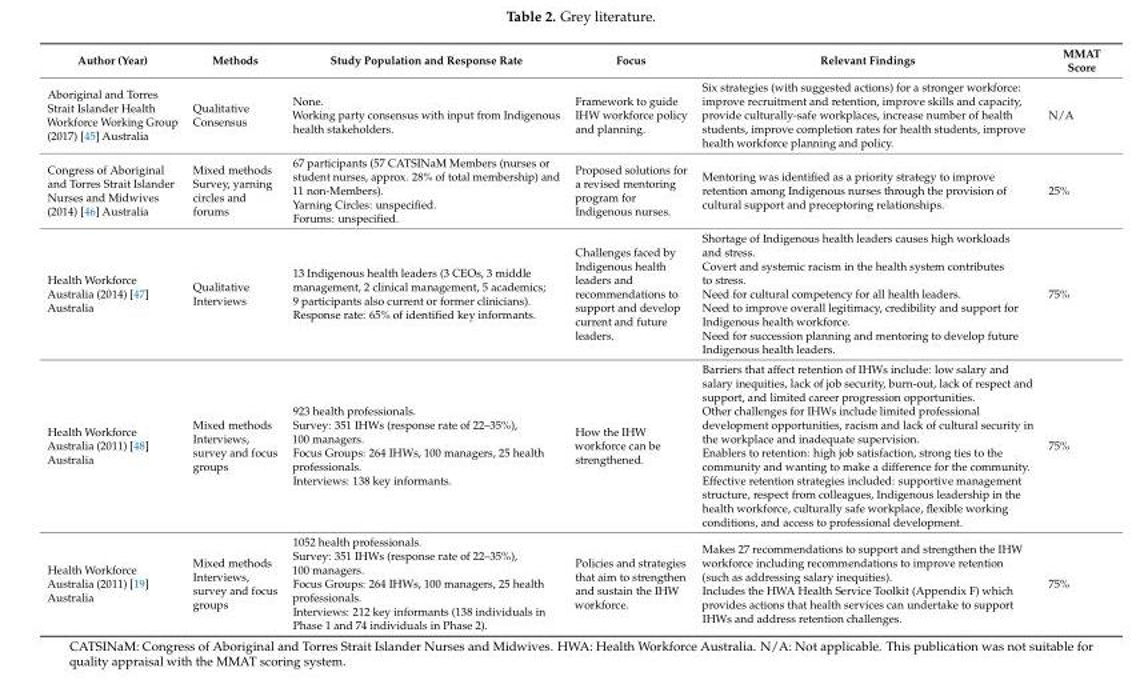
<table><thead><tr><td>Author (Year)</td><td>Methods</td><td>Study Population and Response Rate</td><td>Focus</td><td>Relevant Findings</td><td>MMAT Score</td></tr></thead><tbody><tr><td>Aboriginal and Torres Strait Islander Health Workforce Working Group (2017) [45] Australia</td><td>Qualitative Consensus</td><td>None. Working party consensus with input from Indigenous health stakeholders.</td><td>Framework to guide IHW workforce policy and planning.</td><td>Six strategies (with suggested actions) for a stronger workforce: improve recruitment and retention, improve skills and capacity, provide culturally-safe workplaces, increase number of health students, improve completion rates for health students, improve health workforce planning and policy.</td><td>N/A</td></tr><tr><td>Congress of Aboriginal and Torres Strait Islander Nurses and Midwives (2014) [46] Australia</td><td>Mixed methods Survey, yarning circles and forums</td><td>67 participants (57 CATSINaM Members (nurses or student nurses, approx. 28% of total membership) and 11 non-Members). Yarning Circles: unspecified. Forums: unspecified.</td><td>Proposed solutions for a revised mentoring program for Indigenous nurses.</td><td>Mentoring was identified as a priority strategy to improve retention among Indigenous nurses through the provision of cultural support and preceptoring relationships.</td><td>25%</td></tr><tr><td>Health Workforce Australia (2014) [47] Australia</td><td>Qualitative Interviews</td><td>13 Indigenous health leaders (3 CEOs, 3 middle management, 2 clinical management, 5 academics; 9 participants also current or former clinicians). Response rate: 65% of identified key informants.</td><td>Challenges faced by Indigenous health leaders and recommendations to support and develop current and future leaders.</td><td>Shortage of Indigenous health leaders causes high workloads and stress. Covert and systemic racism in the health system contributes to stress. Need for cultural competency for all health leaders. Need to improve overall legitimacy, credibility and support for Indigenous health workforce. Need for succession planning and mentoring to develop future Indigenous health leaders.</td><td>75%</td></tr><tr><td>Health Workforce Australia (2011) [48] Australia</td><td>Mixed methods Interviews, survey and focus groups</td><td>923 health professionals. Survey: 351 IHWs (response rate of 22–35%), 100 managers. Focus Groups: 264 IHWs, 100 managers, 25 health professionals. Interviews: 138 key informants.</td><td>How the IHW workforce can be strengthened.</td><td>Barriers that affect retention of IHWs include: low salary and salary inequities, lack of job security, burn-out, lack of respect and support, and limited career progression opportunities. Other challenges for IHWs include limited professional development opportunities, racism and lack of cultural security in the workplace and inadequate supervision. Enablers to retention: high job satisfaction, strong ties to the community and wanting to make a difference for the community. Effective retention strategies included: supportive management structure, respect from colleagues, Indigenous leadership in the health workforce, culturally safe workplace, flexible working conditions, and access to professional development.</td><td>75%</td></tr><tr><td>Health Workforce Australia (2011) [19] Australia</td><td>Mixed methods Interviews, survey and focus groups</td><td>1052 health professionals. Survey: 351 IHWs (response rate of 22–35%), 100 managers. Focus Groups: 264 IHWs, 100 managers, 25 health professionals. Interviews: 212 key informants (138 individuals in Phase 1 and 74 individuals in Phase 2).</td><td>Policies and strategies that aim to strengthen and sustain the IHW workforce.</td><td>Makes 27 recommendations to support and strengthen the IHW workforce including recommendations to improve retention (such as addressing salary inequities). Includes the HWA Health Service Toolkit (Appendix F) which provides actions that health services can undertake to support IHWs and address retention challenges.</td><td>75%</td></tr></tbody></table>